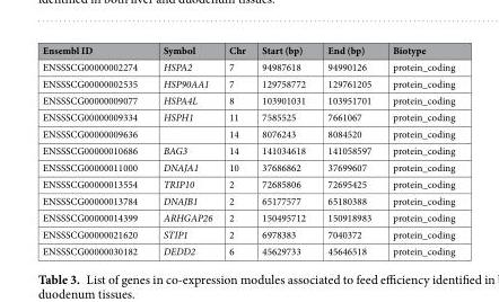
<table><thead><tr><td>Ensembl ID</td><td>Symbol</td><td>Chr</td><td>Start (bp)</td><td>End (bp)</td><td>Biotype</td></tr></thead><tbody><tr><td>ENSSSCG00000002274</td><td>HSPA2</td><td>7</td><td>94987618</td><td>94990126</td><td>protein_coding</td></tr><tr><td>ENSSSCG00000002535</td><td>HSP90AA1</td><td>7</td><td>129758772</td><td>129761205</td><td>protein_coding</td></tr><tr><td>ENSSSCG00000009077</td><td>HSPA4L</td><td>8</td><td>103901031</td><td>103951701</td><td>protein_coding</td></tr><tr><td>ENSSSCG00000009334</td><td>HSPH1</td><td>11</td><td>7585525</td><td>7661067</td><td>protein_coding</td></tr><tr><td>ENSSSCG00000009636</td><td></td><td>14</td><td>8076243</td><td>8084520</td><td>protein_coding</td></tr><tr><td>ENSSSCG00000010686</td><td>BAG3</td><td>14</td><td>141034618</td><td>141058597</td><td>protein_coding</td></tr><tr><td>ENSSSCG00000011000</td><td>DNAJA1</td><td>10</td><td>37686862</td><td>37699607</td><td>protein_coding</td></tr><tr><td>ENSSSCG00000013554</td><td>TRIP10</td><td>2</td><td>72685806</td><td>72695425</td><td>protein_coding</td></tr><tr><td>ENSSSCG00000013784</td><td>DNAJB1</td><td>2</td><td>65177577</td><td>65180388</td><td>protein_coding</td></tr><tr><td>ENSSSCG00000014399</td><td>ARHGAP26</td><td>2</td><td>150495712</td><td>150918983</td><td>protein_coding</td></tr><tr><td>ENSSSCG00000021620</td><td>STIP1</td><td>2</td><td>6978383</td><td>7040372</td><td>protein_coding</td></tr><tr><td>ENSSSCG00000030182</td><td>DEDD2</td><td>6</td><td>45629733</td><td>45646518</td><td>protein_coding</td></tr></tbody></table>